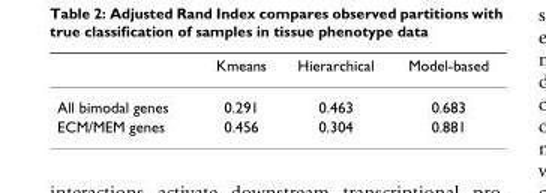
<table><thead><tr><td></td><td>Kmeans</td><td>Hierarchical</td><td>Model-based</td></tr></thead><tbody><tr><td>All bimodal genes</td><td>0.291</td><td>0.463</td><td>0.683</td></tr><tr><td>ECM/MEM genes</td><td>0.456</td><td>0.304</td><td>0.881</td></tr></tbody></table>